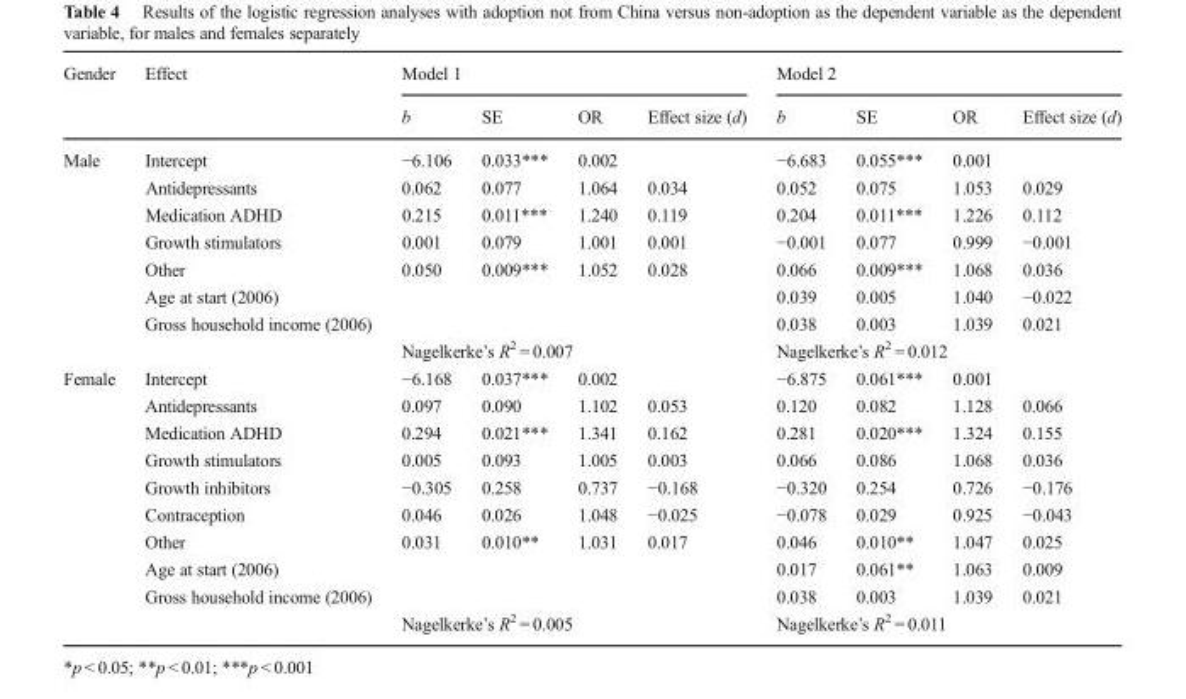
<table><thead><tr><td rowspan="2">Gender</td><td rowspan="2">Effect</td><td colspan="4">Model 1</td><td colspan="4">Model 2</td></tr><tr><td>b</td><td>SE</td><td>OR</td><td>Effect size (d)</td><td>b</td><td>SE</td><td>OR</td><td>Effect size (d)</td></tr></thead><tbody><tr><td rowspan="8">Male</td><td>Intercept</td><td>−6.106</td><td>0.033***</td><td>0.002</td><td></td><td>−6.683</td><td>0.055***</td><td>0.001</td><td></td></tr><tr><td>Antidepressants</td><td>0.062</td><td>0.077</td><td>1.064</td><td>0.034</td><td>0.052</td><td>0.075</td><td>1.053</td><td>0.029</td></tr><tr><td>Medication ADHD</td><td>0.215</td><td>0.011***</td><td>1.240</td><td>0.119</td><td>0.204</td><td>0.011***</td><td>1.226</td><td>0.112</td></tr><tr><td>Growth stimulators</td><td>0.001</td><td>0.079</td><td>1.001</td><td>0.001</td><td>−0.001</td><td>0.077</td><td>0.999</td><td>−0.001</td></tr><tr><td>Other</td><td>0.050</td><td>0.009***</td><td>1.052</td><td>0.028</td><td>0.066</td><td>0.009***</td><td>1.068</td><td>0.036</td></tr><tr><td>Age at start (2006)</td><td></td><td></td><td></td><td></td><td>0.039</td><td>0.005</td><td>1.040</td><td>−0.022</td></tr><tr><td>Gross household income (2006)</td><td></td><td></td><td></td><td></td><td>0.038</td><td>0.003</td><td>1.039</td><td>0.021</td></tr><tr><td></td><td colspan="4">Nagelkerke’s R<sup>2</sup> = 0.007</td><td colspan="4">Nagelkerke’s R<sup>2</sup> = 0.012</td></tr><tr><td rowspan="10">Female</td><td>Intercept</td><td>−6.168</td><td>0.037***</td><td>0.002</td><td></td><td>−6.875</td><td>0.061***</td><td>0.001</td><td></td></tr><tr><td>Antidepressants</td><td>0.097</td><td>0.090</td><td>1.102</td><td>0.053</td><td>0.120</td><td>0.082</td><td>1.128</td><td>0.066</td></tr><tr><td>Medication ADHD</td><td>0.294</td><td>0.021***</td><td>1.341</td><td>0.162</td><td>0.281</td><td>0.020***</td><td>1.324</td><td>0.155</td></tr><tr><td>Growth stimulators</td><td>0.005</td><td>0.093</td><td>1.005</td><td>0.003</td><td>0.066</td><td>0.086</td><td>1.068</td><td>0.036</td></tr><tr><td>Growth inhibitors</td><td>−0.305</td><td>0.258</td><td>0.737</td><td>−0.168</td><td>−0.320</td><td>0.254</td><td>0.726</td><td>−0.176</td></tr><tr><td>Contraception</td><td>0.046</td><td>0.026</td><td>1.048</td><td>−0.025</td><td>−0.078</td><td>0.029</td><td>0.925</td><td>−0.043</td></tr><tr><td>Other</td><td>0.031</td><td>0.010**</td><td>1.031</td><td>0.017</td><td>0.046</td><td>0.010**</td><td>1.047</td><td>0.025</td></tr><tr><td>Age at start (2006)</td><td></td><td></td><td></td><td></td><td>0.017</td><td>0.061**</td><td>1.063</td><td>0.009</td></tr><tr><td>Gross household income (2006)</td><td></td><td></td><td></td><td></td><td>0.038</td><td>0.003</td><td>1.039</td><td>0.021</td></tr><tr><td></td><td colspan="4">Nagelkerke’s R<sup>2</sup> = 0.005</td><td colspan="4">Nagelkerke’s R<sup>2</sup> = 0.011</td></tr></tbody></table>